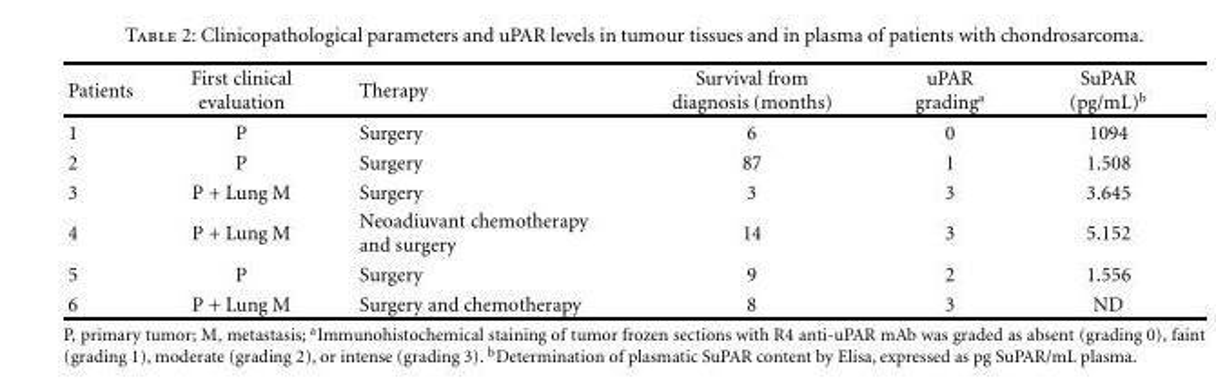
<table><thead><tr><td>Patients</td><td>First clinical evaluation</td><td>Therapy</td><td>Survival from diagnosis (months)</td><td>uPAR grading<sup>a</sup></td><td>SuPAR (pg/mL)<sup>b</sup></td></tr></thead><tbody><tr><td>1</td><td>P</td><td>Surgery</td><td>6</td><td>0</td><td>1094</td></tr><tr><td>2</td><td>P</td><td>Surgery</td><td>87</td><td>1</td><td>1.508</td></tr><tr><td>3</td><td>P + Lung M</td><td>Surgery</td><td>3</td><td>3</td><td>3.645</td></tr><tr><td>4</td><td>P + Lung M</td><td>Neoadiuvant chemotherapy and surgery</td><td>14</td><td>3</td><td>5.152</td></tr><tr><td>5</td><td>P</td><td>Surgery</td><td>9</td><td>2</td><td>1.556</td></tr><tr><td>6</td><td>P + Lung M</td><td>Surgery and chemotherapy</td><td>8</td><td>3</td><td>ND</td></tr></tbody></table>